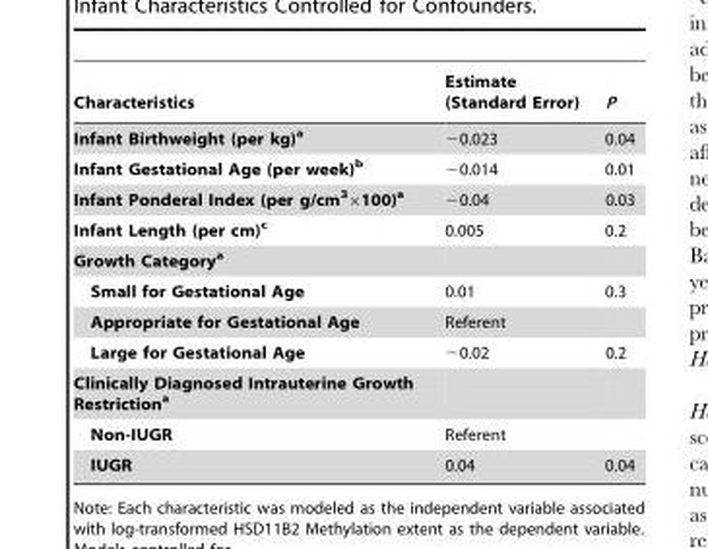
<table><thead><tr><td>Characteristics</td><td>Estimate (Standard Error)</td><td>P</td></tr></thead><tbody><tr><td>Infant Birthweight (per kg)a</td><td>−0.023</td><td>0.04</td></tr><tr><td>Infant Gestational Age (per week)b</td><td>−0.014</td><td>0.01</td></tr><tr><td>Infant Ponderal Index (per g/cm<sup>3</sup>×100)a</td><td>−0.04</td><td>0.03</td></tr><tr><td>Infant Length (per cm)c</td><td>0.005</td><td>0.2</td></tr><tr><td colspan="3">Growth Categorya</td></tr><tr><td>Small for Gestational Age</td><td>0.01</td><td>0.3</td></tr><tr><td>Appropriate for Gestational Age</td><td>Referent</td><td></td></tr><tr><td>Large for Gestational Age</td><td>−0.02</td><td>0.2</td></tr><tr><td colspan="3">Clinically Diagnosed Intrauterine Growth Restrictiona</td></tr><tr><td>Non-IUGR</td><td>Referent</td><td></td></tr><tr><td>IUGR</td><td>0.04</td><td>0.04</td></tr></tbody></table>